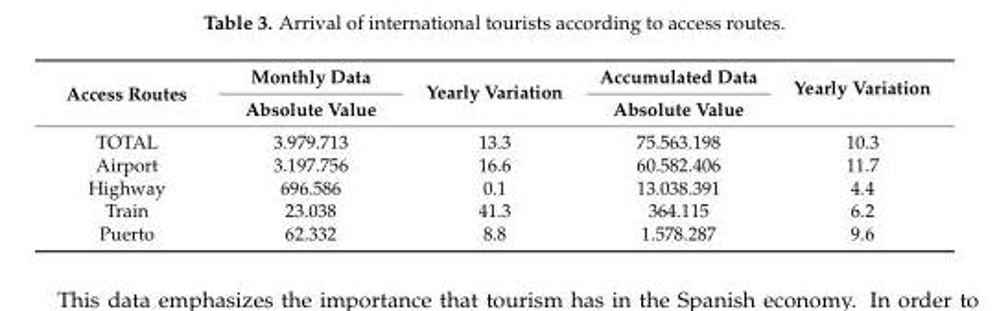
<table><thead><tr><td rowspan="2">Access Routes</td><td rowspan="2">Monthly Data Absolute Value</td><td rowspan="2">Yearly Variation</td><td rowspan="2">Accumulated Data Absolute Value</td><td rowspan="2">Yearly Variation</td></tr><tr></tr></thead><tbody><tr><td>TOTAL</td><td>3.979.713</td><td>13.3</td><td>75.563.198</td><td>10.3</td></tr><tr><td>Airport</td><td>3.197.756</td><td>16.6</td><td>60.582.406</td><td>11.7</td></tr><tr><td>Highway</td><td>696.586</td><td>0.1</td><td>13.038.391</td><td>4.4</td></tr><tr><td>Train</td><td>23.038</td><td>41.3</td><td>364.115</td><td>6.2</td></tr><tr><td>Puerto</td><td>62.332</td><td>8.8</td><td>1.578.287</td><td>9.6</td></tr></tbody></table>